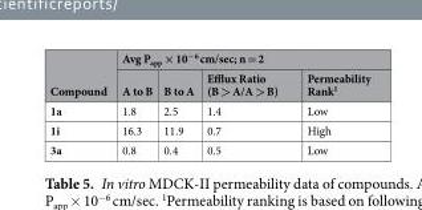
<table><thead><tr><td rowspan="2">Compound</td><td colspan="4">Avg P<sub>app</sub> × 10<sup>−6</sup> cm/sec; n = 2</td></tr><tr><td>A to B</td><td>B to A</td><td>Efflux Ratio (B &gt; A/A &gt; B)</td><td>Permeability Rank<sup>1</sup></td></tr></thead><tbody><tr><td>1a</td><td>1.8</td><td>2.5</td><td>1.4</td><td>Low</td></tr><tr><td>1i</td><td>16.3</td><td>11.9</td><td>0.7</td><td>High</td></tr><tr><td>3a</td><td>0.8</td><td>0.4</td><td>0.5</td><td>Low</td></tr></tbody></table>